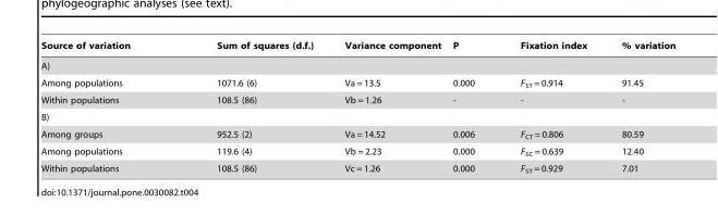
<table><thead><tr><td>Source of variation</td><td>Sum of squares (d.f.)</td><td>Variance component</td><td>P</td><td>Fixation index</td><td>% variation</td></tr></thead><tbody><tr><td colspan="6">A)</td></tr><tr><td>Among populations</td><td>1071.6 (6)</td><td>Va = 13.5</td><td>0.000</td><td>F<sub>ST</sub> = 0.914</td><td>91.45</td></tr><tr><td>Within populations</td><td>108.5 (86)</td><td>Vb = 1.26</td><td>-</td><td>-</td><td>-</td></tr><tr><td colspan="6">B)</td></tr><tr><td>Among groups</td><td>952.5 (2)</td><td>Va = 14.52</td><td>0.006</td><td>F<sub>CT</sub> = 0.806</td><td>80.59</td></tr><tr><td>Among populations</td><td>119.6 (4)</td><td>Vb = 2.23</td><td>0.000</td><td>F<sub>SC</sub> = 0.639</td><td>12.40</td></tr><tr><td>Within populations</td><td>108.5 (86)</td><td>Vc = 1.26</td><td>0.000</td><td>F<sub>ST</sub> = 0.929</td><td>7.01</td></tr></tbody></table>